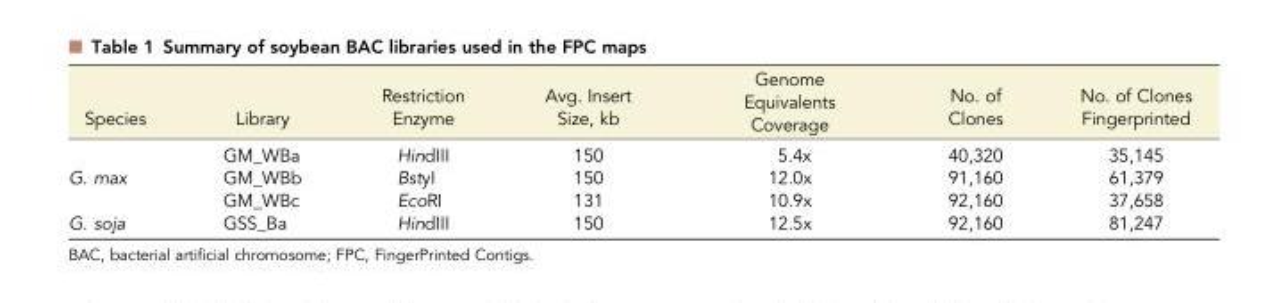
<table><thead><tr><td>Species</td><td>Library</td><td>Restriction Enzyme</td><td>Avg. Insert Size, kb</td><td>Genome Equivalents Coverage</td><td>No. of Clones</td><td>No. of Clones Fingerprinted</td></tr></thead><tbody><tr><td></td><td>GM_WBa</td><td>HindIII</td><td>150</td><td>5.4x</td><td>40,320</td><td>35,145</td></tr><tr><td rowspan="2">G. max</td><td>GM_WBb</td><td>BstyI</td><td>150</td><td>12.0x</td><td>91,160</td><td>61,379</td></tr><tr><td>GM_WBc</td><td>EcoRI</td><td>131</td><td>10.9x</td><td>92,160</td><td>37,658</td></tr><tr><td>G. soja</td><td>GSS_Ba</td><td>HindIII</td><td>150</td><td>12.5x</td><td>92,160</td><td>81,247</td></tr></tbody></table>